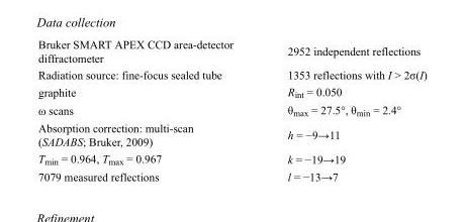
<table><tbody><tr><td>Bruker SMART APEX CCD area-detector diffractometer</td><td>2952 independent reflections</td></tr><tr><td>Radiation source: fine-focus sealed tube</td><td>1353 reflections with I &gt; 2σ(I)</td></tr><tr><td>graphite</td><td>R<sub>int</sub> = 0.050</td></tr><tr><td>ω scans</td><td>θ<sub>max</sub> = 27.5°, θ<sub>min</sub> = 2.4°</td></tr><tr><td>Absorption correction: multi-scan (SADABS; Bruker, 2009)</td><td>h = −9→11</td></tr><tr><td>T<sub>min</sub> = 0.964, T<sub>max</sub> = 0.967</td><td>k = −19→19</td></tr><tr><td>7079 measured reflections</td><td>l = −13→7</td></tr></tbody></table>